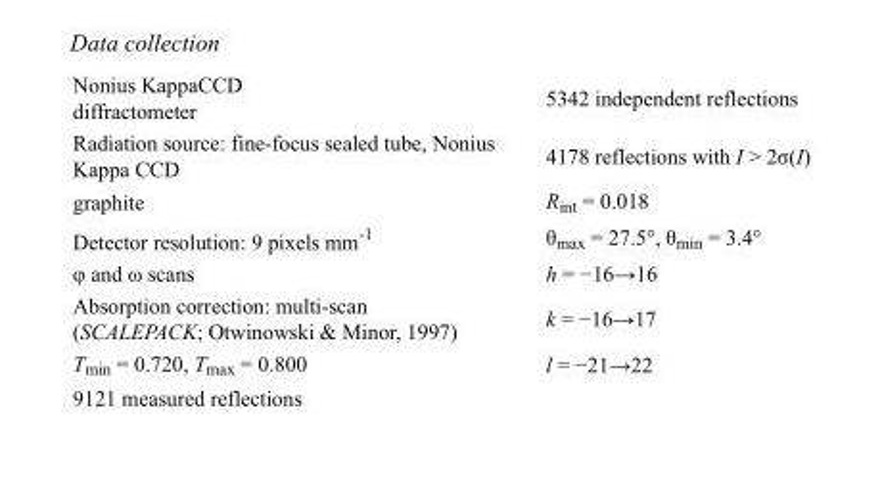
<table><tbody><tr><td>Nonius KappaCCD diffractometer</td><td>5342 independent reflections</td></tr><tr><td>Radiation source: fine-focus sealed tube, Nonius Kappa CCD</td><td>4178 reflections with I &gt; 2σ(I)</td></tr><tr><td>graphite</td><td>R<sub>int</sub> = 0.018</td></tr><tr><td>Detector resolution: 9 pixels mm<sup>-1</sup></td><td>θ<sub>max</sub> = 27.5°, θ<sub>min</sub> = 3.4°</td></tr><tr><td>φ and ω scans</td><td>h = −16→16</td></tr><tr><td>Absorption correction: multi-scan (SCALEPACK; Otwinowski &amp; Minor, 1997)</td><td>k = −16→17</td></tr><tr><td>T<sub>min</sub> = 0.720, T<sub>max</sub> = 0.800</td><td>l = −21→22</td></tr><tr><td>9121 measured reflections</td><td></td></tr></tbody></table>